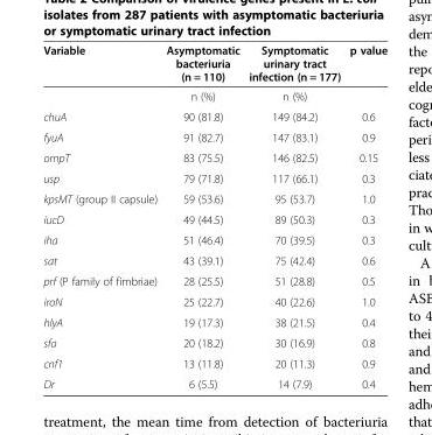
<table><thead><tr><td>Variable</td><td>Asymptomatic bacteriuria (n = 110)</td><td>Symptomatic urinary tract infection (n = 177)</td><td>p value</td></tr></thead><tbody><tr><td></td><td>n (%)</td><td>n (%)</td><td></td></tr><tr><td>chuA</td><td>90 (81.8)</td><td>149 (84.2)</td><td>0.6</td></tr><tr><td>fyuA</td><td>91 (82.7)</td><td>147 (83.1)</td><td>0.9</td></tr><tr><td>ompT</td><td>83 (75.5)</td><td>146 (82.5)</td><td>0.15</td></tr><tr><td>usp</td><td>79 (71.8)</td><td>117 (66.1)</td><td>0.3</td></tr><tr><td>kpsMT (group II capsule)</td><td>59 (53.6)</td><td>95 (53.7)</td><td>1.0</td></tr><tr><td>iucD</td><td>49 (44.5)</td><td>89 (50.3)</td><td>0.3</td></tr><tr><td>iha</td><td>51 (46.4)</td><td>70 (39.5)</td><td>0.3</td></tr><tr><td>sat</td><td>43 (39.1)</td><td>75 (42.4)</td><td>0.6</td></tr><tr><td>prf (P family of fimbriae)</td><td>28 (25.5)</td><td>51 (28.8)</td><td>0.5</td></tr><tr><td>iroN</td><td>25 (22.7)</td><td>40 (22.6)</td><td>1.0</td></tr><tr><td>hlyA</td><td>19 (17.3)</td><td>38 (21.5)</td><td>0.4</td></tr><tr><td>sfa</td><td>20 (18.2)</td><td>30 (16.9)</td><td>0.8</td></tr><tr><td>cnf1</td><td>13 (11.8)</td><td>20 (11.3)</td><td>0.9</td></tr><tr><td>Dr</td><td>6 (5.5)</td><td>14 (7.9)</td><td>0.4</td></tr></tbody></table>